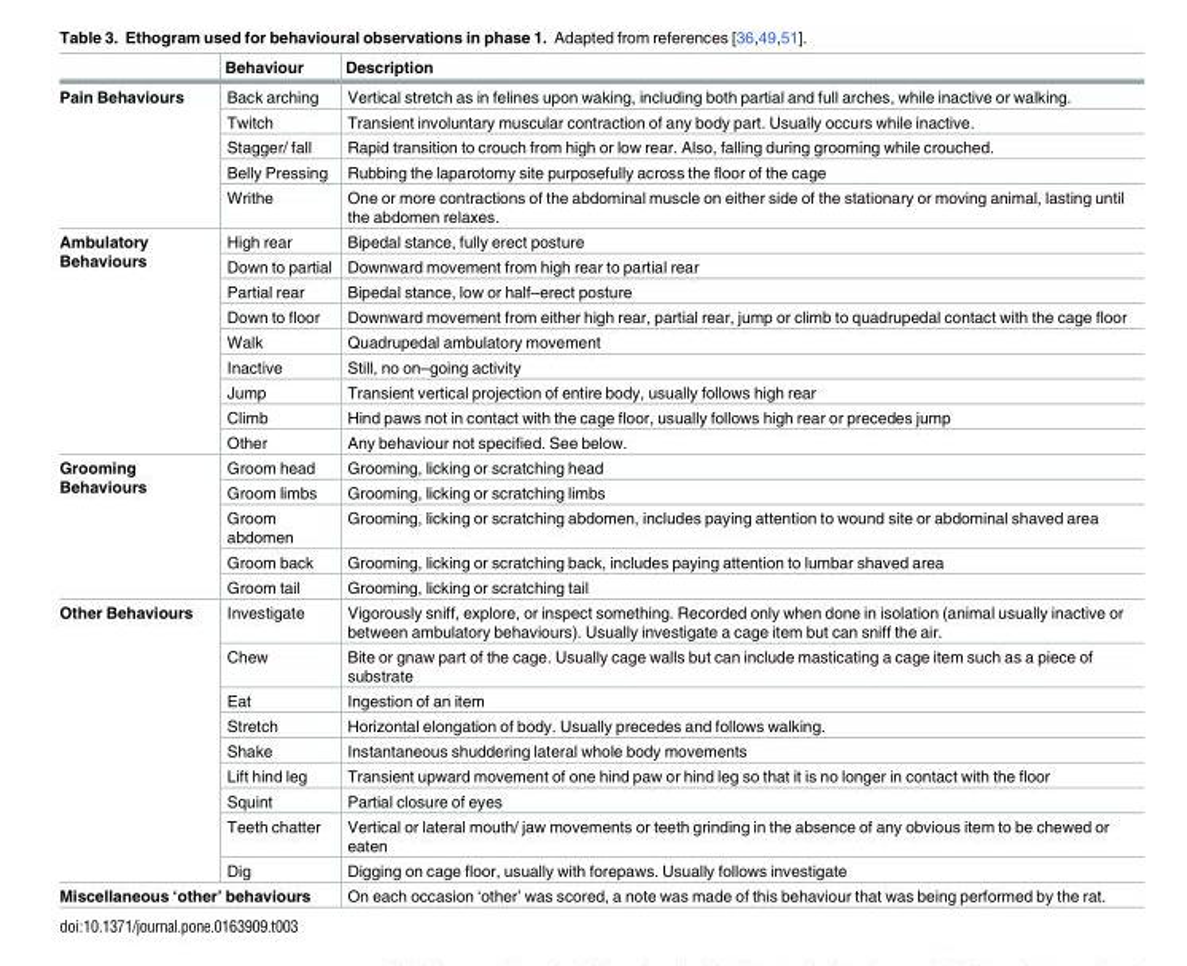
<table><thead><tr><td></td><td>Behaviour</td><td>Description</td></tr></thead><tbody><tr><td rowspan="5">Pain Behaviours</td><td>Back arching</td><td>Vertical stretch as in felines upon waking, including both partial and full arches, while inactive or walking.</td></tr><tr><td>Twitch</td><td>Transient involuntary muscular contraction of any body part. Usually occurs while inactive.</td></tr><tr><td>Stagger/ fall</td><td>Rapid transition to crouch from high or low rear. Also, falling during grooming while crouched.</td></tr><tr><td>Belly Pressing</td><td>Rubbing the laparotomy site purposefully across the floor of the cage</td></tr><tr><td>Writhe</td><td>One or more contractions of the abdominal muscle on either side of the stationary or moving animal, lasting until the abdomen relaxes.</td></tr><tr><td rowspan="9">Ambulatory Behaviours</td><td>High rear</td><td>Bipedal stance, fully erect posture</td></tr><tr><td>Down to partial</td><td>Downward movement from high rear to partial rear</td></tr><tr><td>Partial rear</td><td>Bipedal stance, low or half–erect posture</td></tr><tr><td>Down to floor</td><td>Downward movement from either high rear, partial rear, jump or climb to quadrupedal contact with the cage floor</td></tr><tr><td>Walk</td><td>Quadrupedal ambulatory movement</td></tr><tr><td>Inactive</td><td>Still, no on–going activity</td></tr><tr><td>Jump</td><td>Transient vertical projection of entire body, usually follows high rear</td></tr><tr><td>Climb</td><td>Hind paws not in contact with the cage floor, usually follows high rear or precedes jump</td></tr><tr><td>Other</td><td>Any behaviour not specified. See below.</td></tr><tr><td rowspan="5">Grooming Behaviours</td><td>Groom head</td><td>Grooming, licking or scratching head</td></tr><tr><td>Groom limbs</td><td>Grooming, licking or scratching limbs</td></tr><tr><td>Groom abdomen</td><td>Grooming, licking or scratching abdomen, includes paying attention to wound site or abdominal shaved area</td></tr><tr><td>Groom back</td><td>Grooming, licking or scratching back, includes paying attention to lumbar shaved area</td></tr><tr><td>Groom tail</td><td>Grooming, licking or scratching tail</td></tr><tr><td rowspan="9">Other Behaviours</td><td>Investigate</td><td>Vigorously sniff, explore, or inspect something. Recorded only when done in isolation (animal usually inactive or between ambulatory behaviours). Usually investigate a cage item but can sniff the air.</td></tr><tr><td>Chew</td><td>Bite or gnaw part of the cage. Usually cage walls but can include masticating a cage item such as a piece of substrate</td></tr><tr><td>Eat</td><td>Ingestion of an item</td></tr><tr><td>Stretch</td><td>Horizontal elongation of body. Usually precedes and follows walking.</td></tr><tr><td>Shake</td><td>Instantaneous shuddering lateral whole body movements</td></tr><tr><td>Lift hind leg</td><td>Transient upward movement of one hind paw or hind leg so that it is no longer in contact with the floor</td></tr><tr><td>Squint</td><td>Partial closure of eyes</td></tr><tr><td>Teeth chatter</td><td>Vertical or lateral mouth/ jaw movements or teeth grinding in the absence of any obvious item to be chewed or eaten</td></tr><tr><td>Dig</td><td>Digging on cage floor, usually with forepaws. Usually follows investigate</td></tr><tr><td colspan="2">Miscellaneous ‘other’ behaviours</td><td>On each occasion ‘other’ was scored, a note was made of this behaviour that was being performed by the rat.</td></tr></tbody></table>